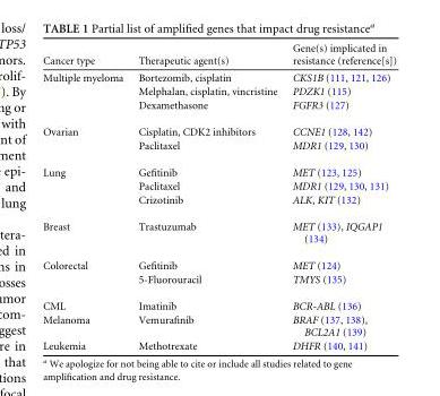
<table><thead><tr><td>Cancer type</td><td>Therapeutic agent(s)</td><td>Gene(s) implicated in resistance (reference[s])</td></tr></thead><tbody><tr><td rowspan="3">Multiple myeloma</td><td>Bortezomib, cisplatin</td><td>CKS1B (111, 121, 126)</td></tr><tr><td>Melphalan, cisplatin, vincristine</td><td>PDZK1 (115)</td></tr><tr><td>Dexamethasone</td><td>FGFR3 (127)</td></tr><tr><td rowspan="2">Ovarian</td><td>Cisplatin, CDK2 inhibitors</td><td>CCNE1 (128, 142)</td></tr><tr><td>Paclitaxel</td><td>MDR1 (129, 130)</td></tr><tr><td rowspan="3">Lung</td><td>Gefitinib</td><td>MET (123, 125)</td></tr><tr><td>Paclitaxel</td><td>MDR1 (129, 130, 131)</td></tr><tr><td>Crizotinib</td><td>ALK, KIT (132)</td></tr><tr><td>Breast</td><td>Trastuzumab</td><td>MET (133), IQGAP1 (134)</td></tr><tr><td rowspan="2">Colorectal</td><td>Gefitinib</td><td>MET (124)</td></tr><tr><td>5-Fluorouracil</td><td>TMYS (135)</td></tr><tr><td>CML</td><td>Imatinib</td><td>BCR-ABL (136)</td></tr><tr><td>Melanoma</td><td>Vemurafinib</td><td>BRAF (137, 138), BCL2A1 (139)</td></tr><tr><td>Leukemia</td><td>Methotrexate</td><td>DHFR (140, 141)</td></tr></tbody></table>